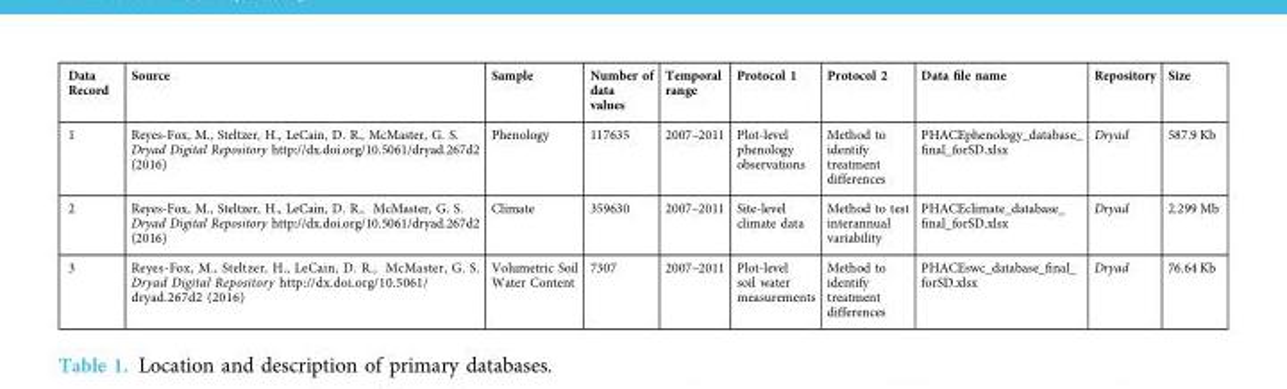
<table><tbody><tr><td>Data Record</td><td>Source</td><td>Sample</td><td>Number of data values</td><td>Temporal range</td><td>Protocol 1</td><td>Protocol 2</td><td>Data file name</td><td>Repository</td><td>Size</td></tr><tr><td>1</td><td>Reyes-Fox, M., Steltzer, H., LeCain, D. R., McMaster, G. S. Dryad Digital Repository http://dx.doi.org/10.5061/dryad.267d2 (2016)</td><td>Phenology</td><td>117635</td><td>2007–2011</td><td>Plot-level phenology observations</td><td>Method to identify treatment differences</td><td>PHACEphenology_database_ final_forSD.xlsx</td><td>Dryad</td><td>587.9 Kb</td></tr><tr><td>2</td><td>Reyes-Fox, M., Steltzer, H., LeCain, D. R., McMaster, G. S. Dryad Digital Repository http://dx.doi.org/10.5061/dryad.267d2 (2016)</td><td>Climate</td><td>359630</td><td>2007–2011</td><td>Site-level climate data</td><td>Method to test interannual variability</td><td>PHACEclimate_database_ final_forSD.xlsx</td><td>Dryad</td><td>2.299 Mb</td></tr><tr><td>3</td><td>Reyes-Fox, M., Steltzer, H., LeCain, D. R., McMaster, G. S. Dryad Digital Repository http://dx.doi.org/10.5061/ dryad.267d2 (2016)</td><td>Volumetric Soil Water Content</td><td>7307</td><td>2007–2011</td><td>Plot-level soil water measurements</td><td>Method to identify treatment differences</td><td>PHACEswc_database_final_ forSD.xlsx</td><td>Dryad</td><td>76.64 Kb</td></tr></tbody></table>